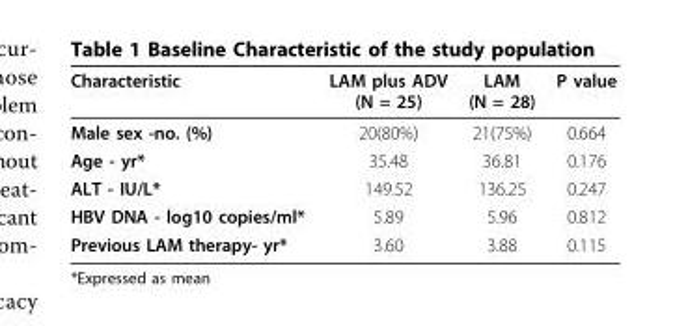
<table><thead><tr><td>Characteristic</td><td>LAM plus ADV (N = 25)</td><td>LAM (N = 28)</td><td>P value</td></tr></thead><tbody><tr><td>Male sex -no. (%)</td><td>20(80%)</td><td>21(75%)</td><td>0.664</td></tr><tr><td>Age - yr*</td><td>35.48</td><td>36.81</td><td>0.176</td></tr><tr><td>ALT - IU/L*</td><td>149.52</td><td>136.25</td><td>0.247</td></tr><tr><td>HBV DNA - log10 copies/ml*</td><td>5.89</td><td>5.96</td><td>0.812</td></tr><tr><td>Previous LAM therapy- yr*</td><td>3.60</td><td>3.88</td><td>0.115</td></tr></tbody></table>